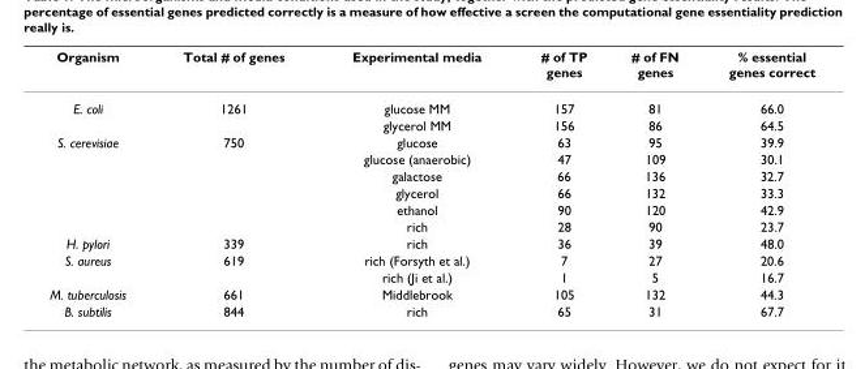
<table><thead><tr><td>Organism</td><td>Total # of genes</td><td>Experimental media</td><td># of TP genes</td><td># of FN genes</td><td>% essential genes correct</td></tr></thead><tbody><tr><td rowspan="2">E. coli</td><td>1261</td><td>glucose MM</td><td>157</td><td>81</td><td>66.0</td></tr><tr><td></td><td>glycerol MM</td><td>156</td><td>86</td><td>64.5</td></tr><tr><td rowspan="6">S. cerevisiae</td><td>750</td><td>glucose</td><td>63</td><td>95</td><td>39.9</td></tr><tr><td></td><td>glucose (anaerobic)</td><td>47</td><td>109</td><td>30.1</td></tr><tr><td></td><td>galactose</td><td>66</td><td>136</td><td>32.7</td></tr><tr><td></td><td>glycerol</td><td>66</td><td>132</td><td>33.3</td></tr><tr><td></td><td>ethanol</td><td>90</td><td>120</td><td>42.9</td></tr><tr><td></td><td>rich</td><td>28</td><td>90</td><td>23.7</td></tr><tr><td>H. pylori</td><td>339</td><td>rich</td><td>36</td><td>39</td><td>48.0</td></tr><tr><td rowspan="2">S. aureus</td><td>619</td><td>rich (Forsyth et al.)</td><td>7</td><td>27</td><td>20.6</td></tr><tr><td></td><td>rich (Ji et al.)</td><td>1</td><td>5</td><td>16.7</td></tr><tr><td>M. tuberculosis</td><td>661</td><td>Middlebrook</td><td>105</td><td>132</td><td>44.3</td></tr><tr><td>B. subtilis</td><td>844</td><td>rich</td><td>65</td><td>31</td><td>67.7</td></tr></tbody></table>